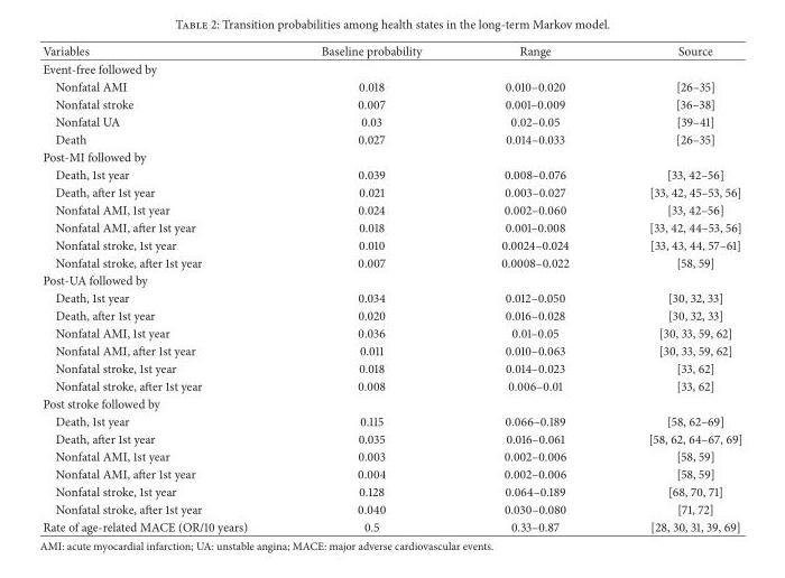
<table><thead><tr><td>Variables</td><td>Baseline probability</td><td>Range</td><td>Source</td></tr></thead><tbody><tr><td colspan="4">Event-free followed by</td></tr><tr><td>Nonfatal AMI</td><td>0.018</td><td>0.010–0.020</td><td>[26–35]</td></tr><tr><td>Nonfatal stroke</td><td>0.007</td><td>0.001–0.009</td><td>[36–38]</td></tr><tr><td>Nonfatal UA</td><td>0.03</td><td>0.02–0.05</td><td>[39–41]</td></tr><tr><td>Death</td><td>0.027</td><td>0.014–0.033</td><td>[26–35]</td></tr><tr><td colspan="4">Post-MI followed by</td></tr><tr><td>Death, 1st year</td><td>0.039</td><td>0.008–0.076</td><td>[33, 42–56]</td></tr><tr><td>Death, after 1st year</td><td>0.021</td><td>0.003–0.027</td><td>[33, 42, 45–53, 56]</td></tr><tr><td>Nonfatal AMI, 1st year</td><td>0.024</td><td>0.002–0.060</td><td>[33, 42–56]</td></tr><tr><td>Nonfatal AMI, after 1st year</td><td>0.018</td><td>0.001–0.008</td><td>[33, 42, 44–53, 56]</td></tr><tr><td>Nonfatal stroke, 1st year</td><td>0.010</td><td>0.0024–0.024</td><td>[33, 43, 44, 57–61]</td></tr><tr><td>Nonfatal stroke, after 1st year</td><td>0.007</td><td>0.0008–0.022</td><td>[58, 59]</td></tr><tr><td colspan="4">Post-UA followed by</td></tr><tr><td>Death, 1st year</td><td>0.034</td><td>0.012–0.050</td><td>[30, 32, 33]</td></tr><tr><td>Death, after 1st year</td><td>0.020</td><td>0.016–0.028</td><td>[30, 32, 33]</td></tr><tr><td>Nonfatal AMI, 1st year</td><td>0.036</td><td>0.01–0.05</td><td>[30, 33, 59, 62]</td></tr><tr><td>Nonfatal AMI, after 1st year</td><td>0.011</td><td>0.010–0.063</td><td>[30, 33, 59, 62]</td></tr><tr><td>Nonfatal stroke, 1st year</td><td>0.018</td><td>0.014–0.023</td><td>[33, 62]</td></tr><tr><td>Nonfatal stroke, after 1st year</td><td>0.008</td><td>0.006–0.01</td><td>[33, 62]</td></tr><tr><td colspan="4">Post stroke followed by</td></tr><tr><td>Death, 1st year</td><td>0.115</td><td>0.066–0.189</td><td>[58, 62–69]</td></tr><tr><td>Death, after 1st year</td><td>0.035</td><td>0.016–0.061</td><td>[58, 62, 64–67, 69]</td></tr><tr><td>Nonfatal AMI, 1st year</td><td>0.003</td><td>0.002–0.006</td><td>[58, 59]</td></tr><tr><td>Nonfatal AMI, after 1st year</td><td>0.004</td><td>0.002–0.006</td><td>[58, 59]</td></tr><tr><td>Nonfatal stroke, 1st year</td><td>0.128</td><td>0.064–0.189</td><td>[68, 70, 71]</td></tr><tr><td>Nonfatal stroke, after 1st year</td><td>0.040</td><td>0.030–0.080</td><td>[71, 72]</td></tr><tr><td>Rate of age-related MACE (OR/10 years)</td><td>0.5</td><td>0.33–0.87</td><td>[28, 30, 31, 39, 69]</td></tr></tbody></table>